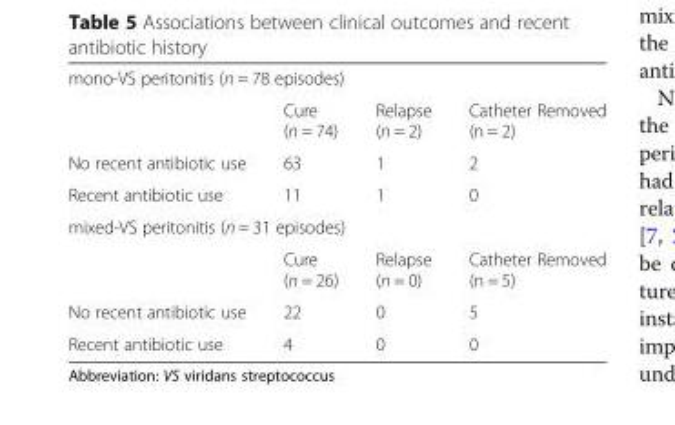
<table><tbody><tr><td colspan="4">mono-VS peritonitis (n = 78 episodes)</td></tr><tr><td></td><td>Cure (n = 74)</td><td>Relapse (n = 2)</td><td>Catheter Removed (n = 2)</td></tr><tr><td>No recent antibiotic use</td><td>63</td><td>1</td><td>2</td></tr><tr><td>Recent antibiotic use</td><td>11</td><td>1</td><td>0</td></tr><tr><td colspan="4">mixed-VS peritonitis (n = 31 episodes)</td></tr><tr><td></td><td>Cure (n = 26)</td><td>Relapse (n = 0)</td><td>Catheter Removed (n = 5)</td></tr><tr><td>No recent antibiotic use</td><td>22</td><td>0</td><td>5</td></tr><tr><td>Recent antibiotic use</td><td>4</td><td>0</td><td>0</td></tr></tbody></table>